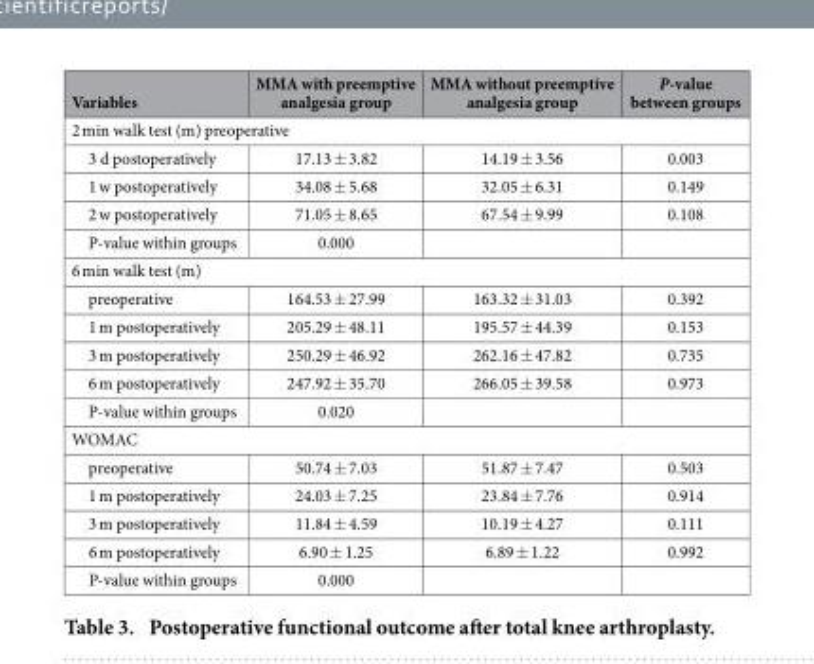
<table><thead><tr><td>Variables</td><td>MMA with preemptive analgesia group</td><td>MMA without preemptive analgesia group</td><td>P-value between groups</td></tr></thead><tbody><tr><td colspan="4">2 min walk test (m) preoperative</td></tr><tr><td>3 d postoperatively</td><td>17.13 ± 3.82</td><td>14.19 ± 3.56</td><td>0.003</td></tr><tr><td>1 w postoperatively</td><td>34.08 ± 5.68</td><td>32.05 ± 6.31</td><td>0.149</td></tr><tr><td>2 w postoperatively</td><td>71.05 ± 8.65</td><td>67.54 ± 9.99</td><td>0.108</td></tr><tr><td>P-value within groups</td><td>0.000</td><td></td><td></td></tr><tr><td colspan="4">6 min walk test (m)</td></tr><tr><td>preoperative</td><td>164.53 ± 27.99</td><td>163.32 ± 31.03</td><td>0.392</td></tr><tr><td>1 m postoperatively</td><td>205.29 ± 48.11</td><td>195.57 ± 44.39</td><td>0.153</td></tr><tr><td>3 m postoperatively</td><td>250.29 ± 46.92</td><td>262.16 ± 47.82</td><td>0.735</td></tr><tr><td>6 m postoperatively</td><td>247.92 ± 35.70</td><td>266.05 ± 39.58</td><td>0.973</td></tr><tr><td>P-value within groups</td><td>0.020</td><td></td><td></td></tr><tr><td colspan="4">WOMAC</td></tr><tr><td>preoperative</td><td>50.74 ± 7.03</td><td>51.87 ± 7.47</td><td>0.503</td></tr><tr><td>1 m postoperatively</td><td>24.03 ± 7.25</td><td>23.84 ± 7.76</td><td>0.914</td></tr><tr><td>3 m postoperatively</td><td>11.84 ± 4.59</td><td>10.19 ± 4.27</td><td>0.111</td></tr><tr><td>6 m postoperatively</td><td>6.90 ± 1.25</td><td>6.89 ± 1.22</td><td>0.992</td></tr><tr><td>P-value within groups</td><td>0.000</td><td></td><td></td></tr></tbody></table>